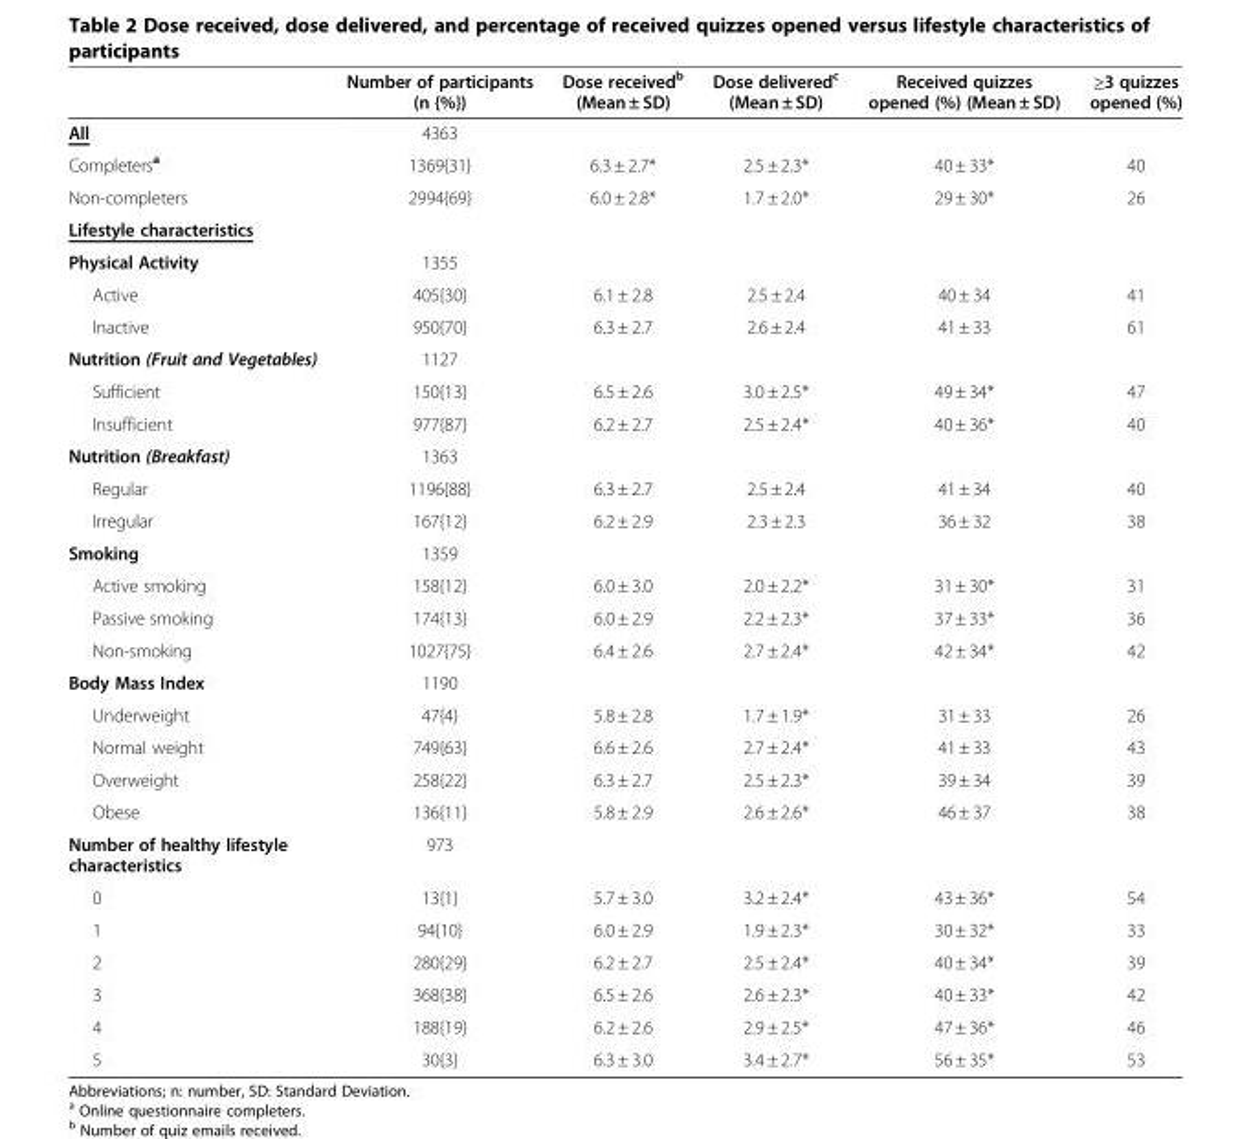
<table><thead><tr><td></td><td>Number of participants (n {%})</td><td>Dose received<sup>b</sup> (Mean ± SD)</td><td>Dose delivered<sup>c</sup> (Mean ± SD)</td><td>Received quizzes opened (%) (Mean ± SD)</td><td>≥3 quizzes opened (%)</td></tr></thead><tbody><tr><td>All</td><td>4363</td><td></td><td></td><td></td><td></td></tr><tr><td>Completers<sup>a</sup></td><td>1369{31}</td><td>6.3 ± 2.7*</td><td>2.5 ± 2.3*</td><td>40 ± 33*</td><td>40</td></tr><tr><td>Non-completers</td><td>2994{69}</td><td>6.0 ± 2.8*</td><td>1.7 ± 2.0*</td><td>29 ± 30*</td><td>26</td></tr><tr><td colspan="6">Lifestyle characteristics</td></tr><tr><td>Physical Activity</td><td>1355</td><td></td><td></td><td></td><td></td></tr><tr><td>Active</td><td>405{30}</td><td>6.1 ± 2.8</td><td>2.5 ± 2.4</td><td>40 ± 34</td><td>41</td></tr><tr><td>Inactive</td><td>950{70}</td><td>6.3 ± 2.7</td><td>2.6 ± 2.4</td><td>41 ± 33</td><td>61</td></tr><tr><td>Nutrition (Fruit and Vegetables)</td><td>1127</td><td></td><td></td><td></td><td></td></tr><tr><td>Sufficient</td><td>150{13}</td><td>6.5 ± 2.6</td><td>3.0 ± 2.5*</td><td>49 ± 34*</td><td>47</td></tr><tr><td>Insufficient</td><td>977{87}</td><td>6.2 ± 2.7</td><td>2.5 ± 2.4*</td><td>40 ± 36*</td><td>40</td></tr><tr><td>Nutrition (Breakfast)</td><td>1363</td><td></td><td></td><td></td><td></td></tr><tr><td>Regular</td><td>1196{88}</td><td>6.3 ± 2.7</td><td>2.5 ± 2.4</td><td>41 ± 34</td><td>40</td></tr><tr><td>Irregular</td><td>167{12}</td><td>6.2 ± 2.9</td><td>2.3 ± 2.3</td><td>36 ± 32</td><td>38</td></tr><tr><td>Smoking</td><td>1359</td><td></td><td></td><td></td><td></td></tr><tr><td>Active smoking</td><td>158{12}</td><td>6.0 ± 3.0</td><td>2.0 ± 2.2*</td><td>31 ± 30*</td><td>31</td></tr><tr><td>Passive smoking</td><td>174{13}</td><td>6.0 ± 2.9</td><td>2.2 ± 2.3*</td><td>37 ± 33*</td><td>36</td></tr><tr><td>Non-smoking</td><td>1027{75}</td><td>6.4 ± 2.6</td><td>2.7 ± 2.4*</td><td>42 ± 34*</td><td>42</td></tr><tr><td>Body Mass Index</td><td>1190</td><td></td><td></td><td></td><td></td></tr><tr><td>Underweight</td><td>47{4}</td><td>5.8 ± 2.8</td><td>1.7 ± 1.9*</td><td>31 ± 33</td><td>26</td></tr><tr><td>Normal weight</td><td>749{63}</td><td>6.6 ± 2.6</td><td>2.7 ± 2.4*</td><td>41 ± 33</td><td>43</td></tr><tr><td>Overweight</td><td>258{22}</td><td>6.3 ± 2.7</td><td>2.5 ± 2.3*</td><td>39 ± 34</td><td>39</td></tr><tr><td>Obese</td><td>136{11}</td><td>5.8 ± 2.9</td><td>2.6 ± 2.6*</td><td>46 ± 37</td><td>38</td></tr><tr><td>Number of healthy lifestyle characteristics</td><td>973</td><td></td><td></td><td></td><td></td></tr><tr><td>0</td><td>13{1}</td><td>5.7 ± 3.0</td><td>3.2 ± 2.4*</td><td>43 ± 36*</td><td>54</td></tr><tr><td>1</td><td>94{10}</td><td>6.0 ± 2.9</td><td>1.9 ± 2.3*</td><td>30 ± 32*</td><td>33</td></tr><tr><td>2</td><td>280{29}</td><td>6.2 ± 2.7</td><td>2.5 ± 2.4*</td><td>40 ± 34*</td><td>39</td></tr><tr><td>3</td><td>368{38}</td><td>6.5 ± 2.6</td><td>2.6 ± 2.3*</td><td>40 ± 33*</td><td>42</td></tr><tr><td>4</td><td>188{19}</td><td>6.2 ± 2.6</td><td>2.9 ± 2.5*</td><td>47 ± 36*</td><td>46</td></tr><tr><td>5</td><td>30{3}</td><td>6.3 ± 3.0</td><td>3.4 ± 2.7*</td><td>56 ± 35*</td><td>53</td></tr></tbody></table>